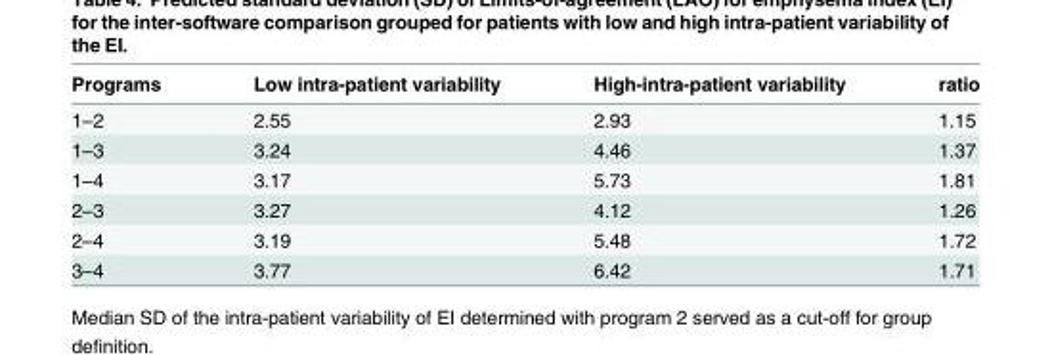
<table><thead><tr><td>Programs</td><td>Low intra-patient variability</td><td>High-intra-patient variability</td><td>ratio</td></tr></thead><tbody><tr><td>1–2</td><td>2.55</td><td>2.93</td><td>1.15</td></tr><tr><td>1–3</td><td>3.24</td><td>4.46</td><td>1.37</td></tr><tr><td>1–4</td><td>3.17</td><td>5.73</td><td>1.81</td></tr><tr><td>2–3</td><td>3.27</td><td>4.12</td><td>1.26</td></tr><tr><td>2–4</td><td>3.19</td><td>5.48</td><td>1.72</td></tr><tr><td>3–4</td><td>3.77</td><td>6.42</td><td>1.71</td></tr></tbody></table>